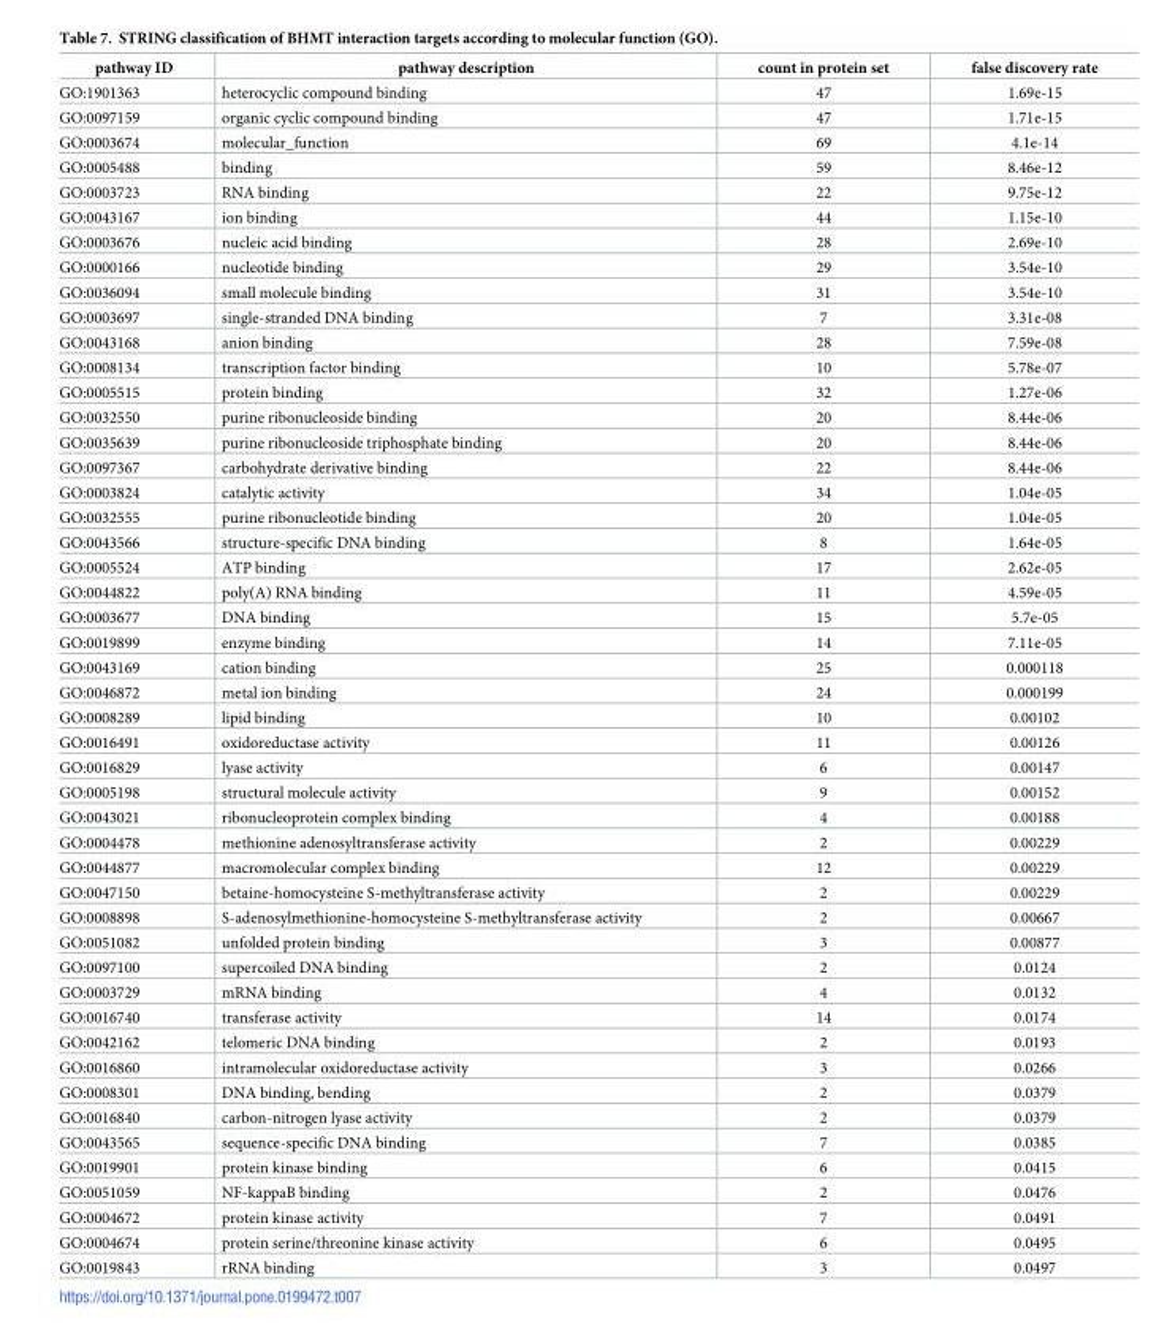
<table><thead><tr><td>pathway ID</td><td>pathway description</td><td>count in protein set</td><td>false discovery rate</td></tr></thead><tbody><tr><td>GO:1901363</td><td>heterocyclic compound binding</td><td>47</td><td>1.69e-15</td></tr><tr><td>GO:0097159</td><td>organic cyclic compound binding</td><td>47</td><td>1.71e-15</td></tr><tr><td>GO:0003674</td><td>molecular_function</td><td>69</td><td>4.1e-14</td></tr><tr><td>GO:0005488</td><td>binding</td><td>59</td><td>8.46e-12</td></tr><tr><td>GO:0003723</td><td>RNA binding</td><td>22</td><td>9.75e-12</td></tr><tr><td>GO:0043167</td><td>ion binding</td><td>44</td><td>1.15e-10</td></tr><tr><td>GO:0003676</td><td>nucleic acid binding</td><td>28</td><td>2.69e-10</td></tr><tr><td>GO:0000166</td><td>nucleotide binding</td><td>29</td><td>3.54e-10</td></tr><tr><td>GO:0036094</td><td>small molecule binding</td><td>31</td><td>3.54e-10</td></tr><tr><td>GO:0003697</td><td>single-stranded DNA binding</td><td>7</td><td>3.31e-08</td></tr><tr><td>GO:0043168</td><td>anion binding</td><td>28</td><td>7.59e-08</td></tr><tr><td>GO:0008134</td><td>transcription factor binding</td><td>10</td><td>5.78e-07</td></tr><tr><td>GO:0005515</td><td>protein binding</td><td>32</td><td>1.27e-06</td></tr><tr><td>GO:0032550</td><td>purine ribonucleoside binding</td><td>20</td><td>8.44e-06</td></tr><tr><td>GO:0035639</td><td>purine ribonucleoside triphosphate binding</td><td>20</td><td>8.44e-06</td></tr><tr><td>GO:0097367</td><td>carbohydrate derivative binding</td><td>22</td><td>8.44e-06</td></tr><tr><td>GO:0003824</td><td>catalytic activity</td><td>34</td><td>1.04e-05</td></tr><tr><td>GO:0032555</td><td>purine ribonucleotide binding</td><td>20</td><td>1.04e-05</td></tr><tr><td>GO:0043566</td><td>structure-specific DNA binding</td><td>8</td><td>1.64e-05</td></tr><tr><td>GO:0005524</td><td>ATP binding</td><td>17</td><td>2.62e-05</td></tr><tr><td>GO:0044822</td><td>poly(A) RNA binding</td><td>11</td><td>4.59e-05</td></tr><tr><td>GO:0003677</td><td>DNA binding</td><td>15</td><td>5.7e-05</td></tr><tr><td>GO:0019899</td><td>enzyme binding</td><td>14</td><td>7.11e-05</td></tr><tr><td>GO:0043169</td><td>cation binding</td><td>25</td><td>0.000118</td></tr><tr><td>GO:0046872</td><td>metal ion binding</td><td>24</td><td>0.000199</td></tr><tr><td>GO:0008289</td><td>lipid binding</td><td>10</td><td>0.00102</td></tr><tr><td>GO:0016491</td><td>oxidoreductase activity</td><td>11</td><td>0.00126</td></tr><tr><td>GO:0016829</td><td>lyase activity</td><td>6</td><td>0.00147</td></tr><tr><td>GO:0005198</td><td>structural molecule activity</td><td>9</td><td>0.00152</td></tr><tr><td>GO:0043021</td><td>ribonucleoprotein complex binding</td><td>4</td><td>0.00188</td></tr><tr><td>GO:0004478</td><td>methionine adenosyltransferase activity</td><td>2</td><td>0.00229</td></tr><tr><td>GO:0044877</td><td>macromolecular complex binding</td><td>12</td><td>0.00229</td></tr><tr><td>GO:0047150</td><td>betaine-homocysteine S-methyltransferase activity</td><td>2</td><td>0.00229</td></tr><tr><td>GO:0008898</td><td>S-adenosylmethionine-homocysteine S-methyltransferase activity</td><td>2</td><td>0.00667</td></tr><tr><td>GO:0051082</td><td>unfolded protein binding</td><td>3</td><td>0.00877</td></tr><tr><td>GO:0097100</td><td>supercoiled DNA binding</td><td>2</td><td>0.0124</td></tr><tr><td>GO:0003729</td><td>mRNA binding</td><td>4</td><td>0.0132</td></tr><tr><td>GO:0016740</td><td>transferase activity</td><td>14</td><td>0.0174</td></tr><tr><td>GO:0042162</td><td>telomeric DNA binding</td><td>2</td><td>0.0193</td></tr><tr><td>GO:0016860</td><td>intramolecular oxidoreductase activity</td><td>3</td><td>0.0266</td></tr><tr><td>GO:0008301</td><td>DNA binding, bending</td><td>2</td><td>0.0379</td></tr><tr><td>GO:0016840</td><td>carbon-nitrogen lyase activity</td><td>2</td><td>0.0379</td></tr><tr><td>GO:0043565</td><td>sequence-specific DNA binding</td><td>7</td><td>0.0385</td></tr><tr><td>GO:0019901</td><td>protein kinase binding</td><td>6</td><td>0.0415</td></tr><tr><td>GO:0051059</td><td>NF-kappaB binding</td><td>2</td><td>0.0476</td></tr><tr><td>GO:0004672</td><td>protein kinase activity</td><td>7</td><td>0.0491</td></tr><tr><td>GO:0004674</td><td>protein serine/threonine kinase activity</td><td>6</td><td>0.0495</td></tr><tr><td>GO:0019843</td><td>rRNA binding</td><td>3</td><td>0.0497</td></tr></tbody></table>